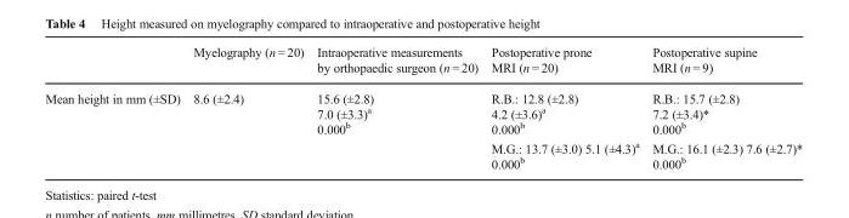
<table><thead><tr><td></td><td>Myelography (n = 20)</td><td>Intraoperative measurements by orthopaedic surgeon (n = 20)</td><td>Postoperative prone MRI (n = 20)</td><td>Postoperative supine MRI (n = 9)</td></tr></thead><tbody><tr><td rowspan="2">Mean height in mm (±SD)</td><td rowspan="2">8.6 (±2.4)</td><td rowspan="2">15.6 (±2.8) 7.0 (±3.3)<sup>a</sup> 0.000<sup>b</sup></td><td>R.B.: 12.8 (±2.8) 4.2 (±3.6)<sup>a</sup> 0.000<sup>b</sup></td><td>R.B.: 15.7 (±2.8) 7.2 (±3.4)* 0.000<sup>b</sup></td></tr><tr><td>M.G.: 13.7 (±3.0) 5.1 (±4.3)<sup>a</sup> 0.000<sup>b</sup></td><td>M.G.: 16.1 (±2.3) 7.6 (±2.7)* 0.000<sup>b</sup></td></tr></tbody></table>